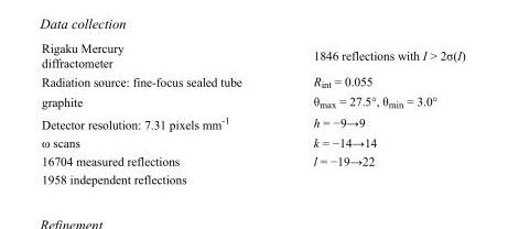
<table><tbody><tr><td>Rigaku Mercury diffractometer</td><td>1846 reflections with I &gt; 2σ(I)</td></tr><tr><td>Radiation source: fine-focus sealed tube</td><td>R<sub>int</sub> = 0.055</td></tr><tr><td>graphite</td><td>θ<sub>max</sub> = 27.5°, θ<sub>min</sub> = 3.0°</td></tr><tr><td>Detector resolution: 7.31 pixels mm<sup>-1</sup></td><td>h = −9→9</td></tr><tr><td>ω scans</td><td>k = −14→14</td></tr><tr><td>16704 measured reflections</td><td>l = −19→22</td></tr><tr><td>1958 independent reflections</td><td></td></tr></tbody></table>